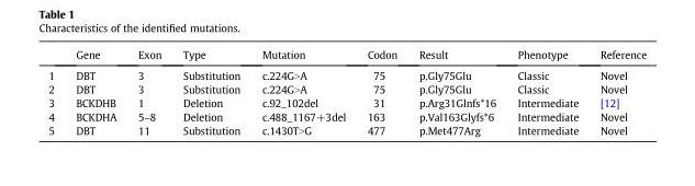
<table><thead><tr><td></td><td>Gene</td><td>Exon</td><td>Type</td><td>Mutation</td><td>Codon</td><td>Result</td><td>Phenotype</td><td>Reference</td></tr></thead><tbody><tr><td>1</td><td>DBT</td><td>3</td><td>Substitution</td><td>c.224G&gt;A</td><td>75</td><td>p.Gly75Glu</td><td>Classic</td><td>Novel</td></tr><tr><td>2</td><td>DBT</td><td>3</td><td>Substitution</td><td>c.224G&gt;A</td><td>75</td><td>p.Gly75Glu</td><td>Classic</td><td>Novel</td></tr><tr><td>3</td><td>BCKDHB</td><td>1</td><td>Deletion</td><td>c.92_102del</td><td>31</td><td>p.Arg31Glnfs*16</td><td>Intermediate</td><td>[12]</td></tr><tr><td>4</td><td>BCKDHA</td><td>5–8</td><td>Deletion</td><td>c.488_1167+3del</td><td>163</td><td>p.Val163Glyfs*6</td><td>Intermediate</td><td>Novel</td></tr><tr><td>5</td><td>DBT</td><td>11</td><td>Substitution</td><td>c.1430T&gt;G</td><td>477</td><td>p.Met477Arg</td><td>Intermediate</td><td>Novel</td></tr></tbody></table>